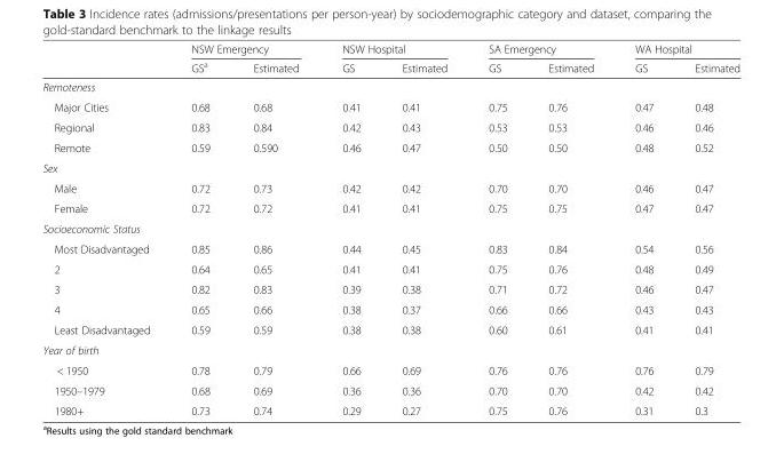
<table><thead><tr><td rowspan="2"></td><td colspan="2">NSW Emergency</td><td colspan="2">NSW Hospital</td><td colspan="2">SA Emergency</td><td colspan="2">WA Hospital</td></tr><tr><td>GS<sup>a</sup></td><td>Estimated</td><td>GS</td><td>Estimated</td><td>GS</td><td>Estimated</td><td>GS</td><td>Estimated</td></tr></thead><tbody><tr><td colspan="9">Remoteness</td></tr><tr><td>Major Cities</td><td>0.68</td><td>0.68</td><td>0.41</td><td>0.41</td><td>0.75</td><td>0.76</td><td>0.47</td><td>0.48</td></tr><tr><td>Regional</td><td>0.83</td><td>0.84</td><td>0.42</td><td>0.43</td><td>0.53</td><td>0.53</td><td>0.46</td><td>0.46</td></tr><tr><td>Remote</td><td>0.59</td><td>0.590</td><td>0.46</td><td>0.47</td><td>0.50</td><td>0.50</td><td>0.48</td><td>0.52</td></tr><tr><td colspan="9">Sex</td></tr><tr><td>Male</td><td>0.72</td><td>0.73</td><td>0.42</td><td>0.42</td><td>0.70</td><td>0.70</td><td>0.46</td><td>0.47</td></tr><tr><td>Female</td><td>0.72</td><td>0.72</td><td>0.41</td><td>0.41</td><td>0.75</td><td>0.75</td><td>0.47</td><td>0.47</td></tr><tr><td colspan="9">Socioeconomic Status</td></tr><tr><td>Most Disadvantaged</td><td>0.85</td><td>0.86</td><td>0.44</td><td>0.45</td><td>0.83</td><td>0.84</td><td>0.54</td><td>0.56</td></tr><tr><td>2</td><td>0.64</td><td>0.65</td><td>0.41</td><td>0.41</td><td>0.75</td><td>0.76</td><td>0.48</td><td>0.49</td></tr><tr><td>3</td><td>0.82</td><td>0.83</td><td>0.39</td><td>0.38</td><td>0.71</td><td>0.72</td><td>0.46</td><td>0.47</td></tr><tr><td>4</td><td>0.65</td><td>0.66</td><td>0.38</td><td>0.37</td><td>0.66</td><td>0.66</td><td>0.43</td><td>0.43</td></tr><tr><td>Least Disadvantaged</td><td>0.59</td><td>0.59</td><td>0.38</td><td>0.38</td><td>0.60</td><td>0.61</td><td>0.41</td><td>0.41</td></tr><tr><td colspan="9">Year of birth</td></tr><tr><td>&lt; 1950</td><td>0.78</td><td>0.79</td><td>0.66</td><td>0.69</td><td>0.76</td><td>0.76</td><td>0.76</td><td>0.79</td></tr><tr><td>1950–1979</td><td>0.68</td><td>0.69</td><td>0.36</td><td>0.36</td><td>0.70</td><td>0.70</td><td>0.42</td><td>0.42</td></tr><tr><td>1980+</td><td>0.73</td><td>0.74</td><td>0.29</td><td>0.27</td><td>0.75</td><td>0.76</td><td>0.31</td><td>0.3</td></tr></tbody></table>